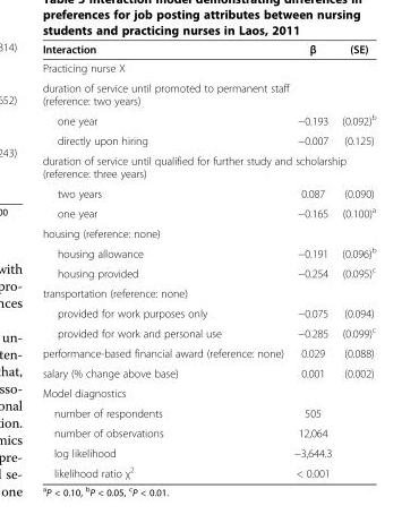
<table><thead><tr><td>Interaction</td><td>β</td><td>(SE)</td></tr></thead><tbody><tr><td colspan="3">Practicing nurse X</td></tr><tr><td colspan="3">duration of service until promoted to permanent staff (reference: two years)</td></tr><tr><td>one year</td><td>−0.193</td><td>(0.092)<sup>b</sup></td></tr><tr><td>directly upon hiring</td><td>−0.007</td><td>(0.125)</td></tr><tr><td colspan="3">duration of service until qualified for further study and scholarship (reference: three years)</td></tr><tr><td>two years</td><td>0.087</td><td>(0.090)</td></tr><tr><td>one year</td><td>−0.165</td><td>(0.100)<sup>a</sup></td></tr><tr><td colspan="3">housing (reference: none)</td></tr><tr><td>housing allowance</td><td>−0.191</td><td>(0.096)<sup>b</sup></td></tr><tr><td>housing provided</td><td>−0.254</td><td>(0.095)<sup>c</sup></td></tr><tr><td colspan="3">transportation (reference: none)</td></tr><tr><td>provided for work purposes only</td><td>−0.075</td><td>(0.094)</td></tr><tr><td>provided for work and personal use</td><td>−0.285</td><td>(0.099)<sup>c</sup></td></tr><tr><td>performance-based financial award (reference: none)</td><td>0.029</td><td>(0.088)</td></tr><tr><td>salary (% change above base)</td><td>0.001</td><td>(0.002)</td></tr><tr><td colspan="3">Model diagnostics</td></tr><tr><td>number of respondents</td><td>505</td><td></td></tr><tr><td>number of observations</td><td>12,064</td><td></td></tr><tr><td>log likelihood</td><td>−3,644.3</td><td></td></tr><tr><td>likelihood ratio χ<sup>2</sup></td><td>&lt; 0.001</td><td></td></tr></tbody></table>